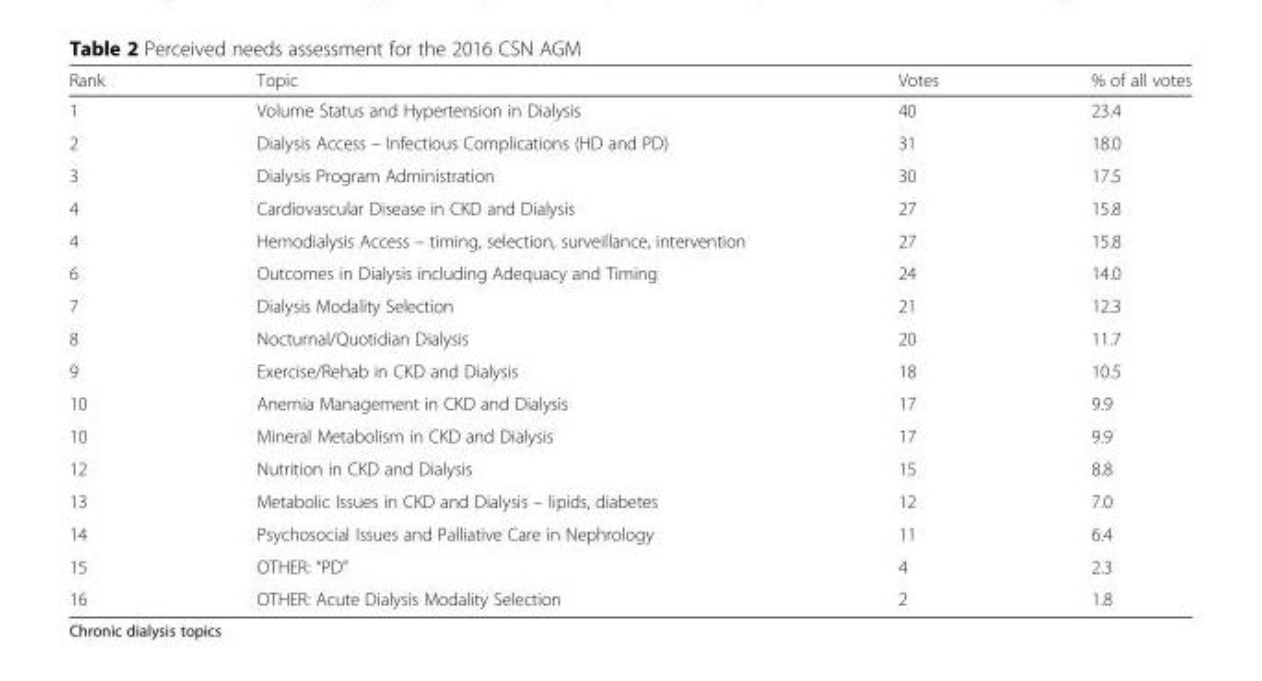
<table><thead><tr><td>Rank</td><td>Topic</td><td>Votes</td><td>% of all votes</td></tr></thead><tbody><tr><td>1</td><td>Volume Status and Hypertension in Dialysis</td><td>40</td><td>23.4</td></tr><tr><td>2</td><td>Dialysis Access – Infectious Complications (HD and PD)</td><td>31</td><td>18.0</td></tr><tr><td>3</td><td>Dialysis Program Administration</td><td>30</td><td>17.5</td></tr><tr><td>4</td><td>Cardiovascular Disease in CKD and Dialysis</td><td>27</td><td>15.8</td></tr><tr><td>4</td><td>Hemodialysis Access – timing, selection, surveillance, intervention</td><td>27</td><td>15.8</td></tr><tr><td>6</td><td>Outcomes in Dialysis including Adequacy and Timing</td><td>24</td><td>14.0</td></tr><tr><td>7</td><td>Dialysis Modality Selection</td><td>21</td><td>12.3</td></tr><tr><td>8</td><td>Nocturnal/Quotidian Dialysis</td><td>20</td><td>11.7</td></tr><tr><td>9</td><td>Exercise/Rehab in CKD and Dialysis</td><td>18</td><td>10.5</td></tr><tr><td>10</td><td>Anemia Management in CKD and Dialysis</td><td>17</td><td>9.9</td></tr><tr><td>10</td><td>Mineral Metabolism in CKD and Dialysis</td><td>17</td><td>9.9</td></tr><tr><td>12</td><td>Nutrition in CKD and Dialysis</td><td>15</td><td>8.8</td></tr><tr><td>13</td><td>Metabolic Issues in CKD and Dialysis – lipids, diabetes</td><td>12</td><td>7.0</td></tr><tr><td>14</td><td>Psychosocial Issues and Palliative Care in Nephrology</td><td>11</td><td>6.4</td></tr><tr><td>15</td><td>OTHER: “PD”</td><td>4</td><td>2.3</td></tr><tr><td>16</td><td>OTHER: Acute Dialysis Modality Selection</td><td>2</td><td>1.8</td></tr></tbody></table>